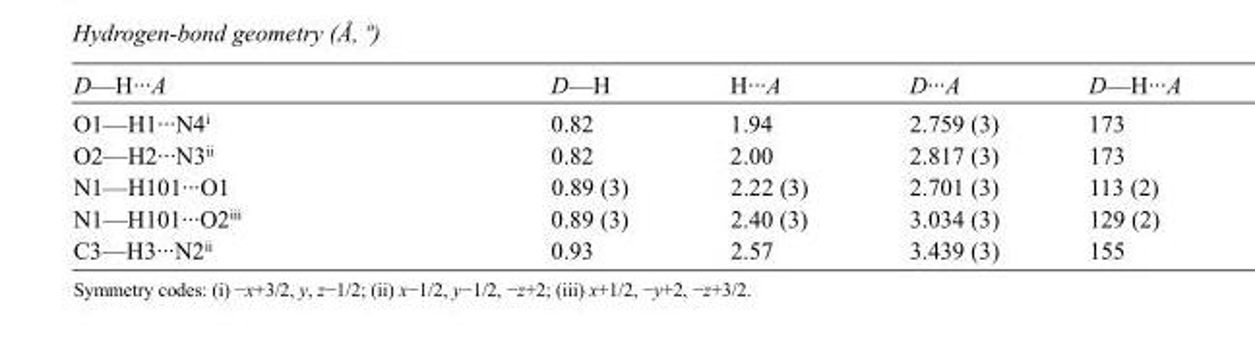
<table><tbody><tr><td>D—H···A</td><td>D—H</td><td>H···A</td><td>D···A</td><td>D—H···A</td></tr><tr><td>O1—H1···N4<sup>i</sup></td><td>0.82</td><td>1.94</td><td>2.759 (3)</td><td>173</td></tr><tr><td>O2—H2···N3<sup>ii</sup></td><td>0.82</td><td>2.00</td><td>2.817 (3)</td><td>173</td></tr><tr><td>N1—H101···O1</td><td>0.89 (3)</td><td>2.22 (3)</td><td>2.701 (3)</td><td>113 (2)</td></tr><tr><td>N1—H101···O2<sup>iii</sup></td><td>0.89 (3)</td><td>2.40 (3)</td><td>3.034 (3)</td><td>129 (2)</td></tr><tr><td>C3—H3···N2<sup>ii</sup></td><td>0.93</td><td>2.57</td><td>3.439 (3)</td><td>155</td></tr></tbody></table>